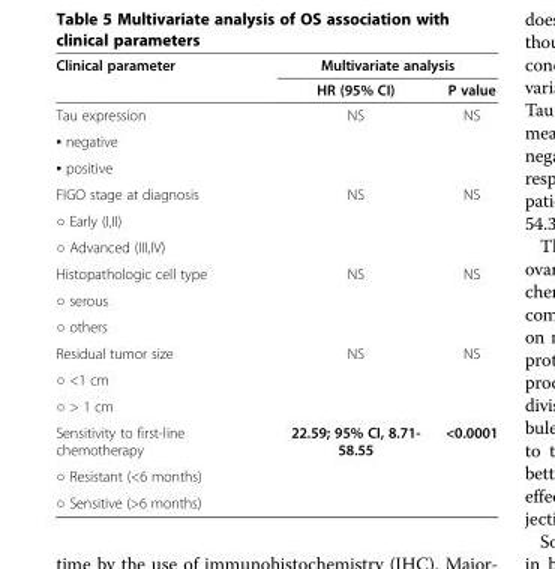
<table><thead><tr><td rowspan="2">Clinical parameter</td><td colspan="2">Multivariate analysis</td></tr><tr><td>HR (95% CI)</td><td>P value</td></tr></thead><tbody><tr><td>Tau expression</td><td rowspan="3">NS</td><td rowspan="3">NS</td></tr><tr><td>▪ negative</td></tr><tr><td>▪ positive</td></tr><tr><td>FIGO stage at diagnosis</td><td rowspan="3">NS</td><td rowspan="3">NS</td></tr><tr><td>○ Early (I,II)</td></tr><tr><td>○ Advanced (III,IV)</td></tr><tr><td>Histopathologic cell type</td><td rowspan="3">NS</td><td rowspan="3">NS</td></tr><tr><td>○ serous</td></tr><tr><td>○ others</td></tr><tr><td>Residual tumor size</td><td rowspan="3">NS</td><td rowspan="3">NS</td></tr><tr><td>○ &lt;1 cm</td></tr><tr><td>○ &gt; 1 cm</td></tr><tr><td>Sensitivity to first-line chemotherapy</td><td rowspan="3">22.59; 95% CI, 8.71- 58.55</td><td rowspan="3">&lt;0.0001</td></tr><tr><td>○ Resistant (&lt;6 months)</td></tr><tr><td>○ Sensitive (&gt;6 months)</td></tr></tbody></table>